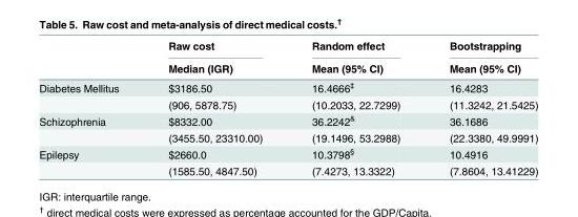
<table><thead><tr><td rowspan="2"></td><td rowspan="2">Raw cost Median (IGR)</td><td rowspan="2">Random effect Mean (95% CI)</td><td rowspan="2">Bootstrapping Mean (95% CI)</td></tr><tr></tr></thead><tbody><tr><td rowspan="2">Diabetes Mellitus</td><td>$3186.50</td><td>16.4666<sup>‡</sup></td><td>16.4283</td></tr><tr><td>(906, 5878.75)</td><td>(10.2033, 22.7299)</td><td>(11.3242, 21.5425)</td></tr><tr><td rowspan="2">Schizophrenia</td><td>$8332.00</td><td>36.2242<sup>&amp;</sup></td><td>36.1686</td></tr><tr><td>(3455.50, 23310.00)</td><td>(19.1496, 53.2988)</td><td>(22.3380, 49.9991)</td></tr><tr><td rowspan="2">Epilepsy</td><td>$2660.0</td><td>10.3798<sup>§</sup></td><td>10.4916</td></tr><tr><td>(1585.50, 4847.50)</td><td>(7.4273, 13.3322)</td><td>(7.8604, 13.41229)</td></tr></tbody></table>